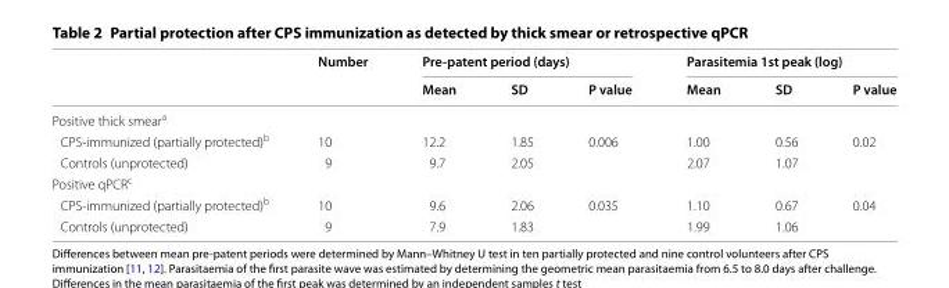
<table><thead><tr><td rowspan="2"></td><td rowspan="2">Number</td><td colspan="3">Pre-patent period (days)</td><td colspan="3">Parasitemia 1st peak (log)</td></tr><tr><td>Mean</td><td>SD</td><td>P value</td><td>Mean</td><td>SD</td><td>P value</td></tr></thead><tbody><tr><td colspan="8">Positive thick smear<sup>a</sup></td></tr><tr><td>CPS-immunized (partially protected)<sup>b</sup></td><td>10</td><td>12.2</td><td>1.85</td><td rowspan="2">0.006</td><td>1.00</td><td>0.56</td><td rowspan="2">0.02</td></tr><tr><td>Controls (unprotected)</td><td>9</td><td>9.7</td><td>2.05</td><td>2.07</td><td>1.07</td></tr><tr><td colspan="8">Positive qPCR<sup>c</sup></td></tr><tr><td>CPS-immunized (partially protected)<sup>b</sup></td><td>10</td><td>9.6</td><td>2.06</td><td rowspan="2">0.035</td><td>1.10</td><td>0.67</td><td rowspan="2">0.04</td></tr><tr><td>Controls (unprotected)</td><td>9</td><td>7.9</td><td>1.83</td><td>1.99</td><td>1.06</td></tr></tbody></table>